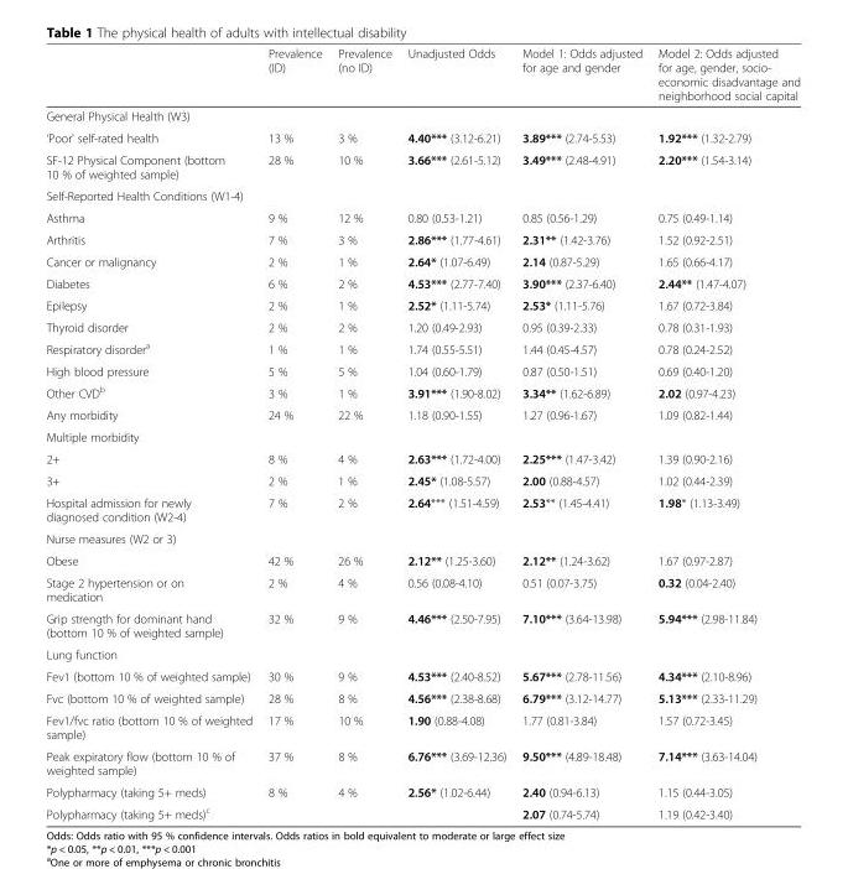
<table><thead><tr><td></td><td>Prevalence (ID)</td><td>Prevalence (no ID)</td><td>Unadjusted Odds</td><td>Model 1: Odds adjusted for age and gender</td><td>Model 2: Odds adjusted for age, gender, socio- economic disadvantage and neighborhood social capital</td></tr></thead><tbody><tr><td colspan="6">General Physical Health (W3)</td></tr><tr><td>‘Poor’ self-rated health</td><td>13 %</td><td>3 %</td><td>4.40*** (3.12-6.21)</td><td>3.89*** (2.74-5.53)</td><td>1.92*** (1.32-2.79)</td></tr><tr><td>SF-12 Physical Component (bottom 10 % of weighted sample)</td><td>28 %</td><td>10 %</td><td>3.66*** (2.61-5.12)</td><td>3.49*** (2.48-4.91)</td><td>2.20*** (1.54-3.14)</td></tr><tr><td colspan="6">Self-Reported Health Conditions (W1-4)</td></tr><tr><td>Asthma</td><td>9 %</td><td>12 %</td><td>0.80 (0.53-1.21)</td><td>0.85 (0.56-1.29)</td><td>0.75 (0.49-1.14)</td></tr><tr><td>Arthritis</td><td>7 %</td><td>3 %</td><td>2.86*** (1.77-4.61)</td><td>2.31** (1.42-3.76)</td><td>1.52 (0.92-2.51)</td></tr><tr><td>Cancer or malignancy</td><td>2 %</td><td>1 %</td><td>2.64* (1.07-6.49)</td><td>2.14 (0.87-5.29)</td><td>1.65 (0.66-4.17)</td></tr><tr><td>Diabetes</td><td>6 %</td><td>2 %</td><td>4.53*** (2.77-7.40)</td><td>3.90*** (2.37-6.40)</td><td>2.44** (1.47-4.07)</td></tr><tr><td>Epilepsy</td><td>2 %</td><td>1 %</td><td>2.52* (1.11-5.74)</td><td>2.53* (1.11-5.76)</td><td>1.67 (0.72-3.84)</td></tr><tr><td>Thyroid disorder</td><td>2 %</td><td>2 %</td><td>1.20 (0.49-2.93)</td><td>0.95 (0.39-2.33)</td><td>0.78 (0.31-1.93)</td></tr><tr><td>Respiratory disorder<sup>a</sup></td><td>1 %</td><td>1 %</td><td>1.74 (0.55-5.51)</td><td>1.44 (0.45-4.57)</td><td>0.78 (0.24-2.52)</td></tr><tr><td>High blood pressure</td><td>5 %</td><td>5 %</td><td>1.04 (0.60-1.79)</td><td>0.87 (0.50-1.51)</td><td>0.69 (0.40-1.20)</td></tr><tr><td>Other CVD<sup>b</sup></td><td>3 %</td><td>1 %</td><td>3.91*** (1.90-8.02)</td><td>3.34** (1.62-6.89)</td><td>2.02 (0.97-4.23)</td></tr><tr><td>Any morbidity</td><td>24 %</td><td>22 %</td><td>1.18 (0.90-1.55)</td><td>1.27 (0.96-1.67)</td><td>1.09 (0.82-1.44)</td></tr><tr><td colspan="6">Multiple morbidity</td></tr><tr><td>2+</td><td>8 %</td><td>4 %</td><td>2.63*** (1.72-4.00)</td><td>2.25*** (1.47-3.42)</td><td>1.39 (0.90-2.16)</td></tr><tr><td>3+</td><td>2 %</td><td>1 %</td><td>2.45* (1.08-5.57)</td><td>2.00 (0.88-4.57)</td><td>1.02 (0.44-2.39)</td></tr><tr><td>Hospital admission for newly diagnosed condition (W2-4)</td><td>7 %</td><td>2 %</td><td>2.64*** (1.51-4.59)</td><td>2.53** (1.45-4.41)</td><td>1.98* (1.13-3.49)</td></tr><tr><td colspan="6">Nurse measures (W2 or 3)</td></tr><tr><td>Obese</td><td>42 %</td><td>26 %</td><td>2.12** (1.25-3.60)</td><td>2.12** (1.24-3.62)</td><td>1.67 (0.97-2.87)</td></tr><tr><td>Stage 2 hypertension or on medication</td><td>2 %</td><td>4 %</td><td>0.56 (0.08-4.10)</td><td>0.51 (0.07-3.75)</td><td>0.32 (0.04-2.40)</td></tr><tr><td>Grip strength for dominant hand (bottom 10 % of weighted sample)</td><td>32 %</td><td>9 %</td><td>4.46*** (2.50-7.95)</td><td>7.10*** (3.64-13.98)</td><td>5.94*** (2.98-11.84)</td></tr><tr><td colspan="6">Lung function</td></tr><tr><td>Fev1 (bottom 10 % of weighted sample)</td><td>30 %</td><td>9 %</td><td>4.53*** (2.40-8.52)</td><td>5.67*** (2.78-11.56)</td><td>4.34*** (2.10-8.96)</td></tr><tr><td>Fvc (bottom 10 % of weighted sample)</td><td>28 %</td><td>8 %</td><td>4.56*** (2.38-8.68)</td><td>6.79*** (3.12-14.77)</td><td>5.13*** (2.33-11.29)</td></tr><tr><td>Fev1/fvc ratio (bottom 10 % of weighted sample)</td><td>17 %</td><td>10 %</td><td>1.90 (0.88-4.08)</td><td>1.77 (0.81-3.84)</td><td>1.57 (0.72-3.45)</td></tr><tr><td>Peak expiratory flow (bottom 10 % of weighted sample)</td><td>37 %</td><td>8 %</td><td>6.76*** (3.69-12.36)</td><td>9.50*** (4.89-18.48)</td><td>7.14*** (3.63-14.04)</td></tr><tr><td>Polypharmacy (taking 5+ meds)</td><td>8 %</td><td>4 %</td><td>2.56* (1.02-6.44)</td><td>2.40 (0.94-6.13)</td><td>1.15 (0.44-3.05)</td></tr><tr><td>Polypharmacy (taking 5+ meds)<sup>c</sup></td><td></td><td></td><td></td><td>2.07 (0.74-5.74)</td><td>1.19 (0.42-3.40)</td></tr></tbody></table>